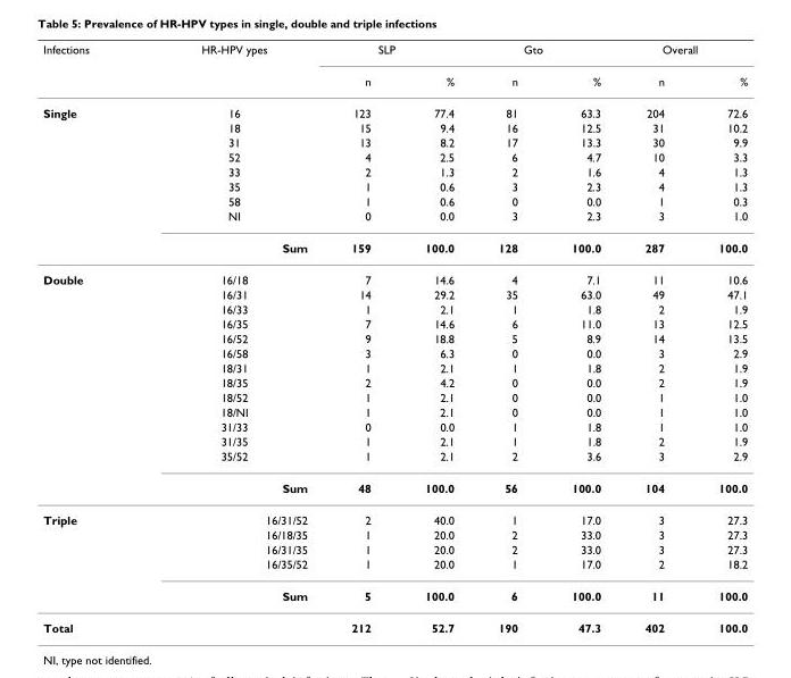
<table><thead><tr><td rowspan="2">Infections</td><td rowspan="2">HR-HPV ypes</td><td colspan="2">SLP</td><td colspan="2">Gto</td><td colspan="2">Overall</td></tr><tr><td>n</td><td>%</td><td>n</td><td>%</td><td>n</td><td>%</td></tr></thead><tbody><tr><td rowspan="9">Single</td><td>16</td><td>123</td><td>77.4</td><td>81</td><td>63.3</td><td>204</td><td>72.6</td></tr><tr><td>18</td><td>15</td><td>9.4</td><td>16</td><td>12.5</td><td>31</td><td>10.2</td></tr><tr><td>31</td><td>13</td><td>8.2</td><td>17</td><td>13.3</td><td>30</td><td>9.9</td></tr><tr><td>52</td><td>4</td><td>2.5</td><td>6</td><td>4.7</td><td>10</td><td>3.3</td></tr><tr><td>33</td><td>2</td><td>1.3</td><td>2</td><td>1.6</td><td>4</td><td>1.3</td></tr><tr><td>35</td><td>1</td><td>0.6</td><td>3</td><td>2.3</td><td>4</td><td>1.3</td></tr><tr><td>58</td><td>1</td><td>0.6</td><td>0</td><td>0.0</td><td>1</td><td>0.3</td></tr><tr><td>NI</td><td>0</td><td>0.0</td><td>3</td><td>2.3</td><td>3</td><td>1.0</td></tr><tr><td>Sum</td><td>159</td><td>100.0</td><td>128</td><td>100.0</td><td>287</td><td>100.0</td></tr><tr><td rowspan="14">Double</td><td>16/18</td><td>7</td><td>14.6</td><td>4</td><td>7.1</td><td>11</td><td>10.6</td></tr><tr><td>16/31</td><td>14</td><td>29.2</td><td>35</td><td>63.0</td><td>49</td><td>47.1</td></tr><tr><td>16/33</td><td>1</td><td>2.1</td><td>1</td><td>1.8</td><td>2</td><td>1.9</td></tr><tr><td>16/35</td><td>7</td><td>14.6</td><td>6</td><td>11.0</td><td>13</td><td>12.5</td></tr><tr><td>16/52</td><td>9</td><td>18.8</td><td>5</td><td>8.9</td><td>14</td><td>13.5</td></tr><tr><td>16/58</td><td>3</td><td>6.3</td><td>0</td><td>0.0</td><td>3</td><td>2.9</td></tr><tr><td>18/31</td><td>1</td><td>2.1</td><td>1</td><td>1.8</td><td>2</td><td>1.9</td></tr><tr><td>18/35</td><td>2</td><td>4.2</td><td>0</td><td>0.0</td><td>2</td><td>1.9</td></tr><tr><td>18/52</td><td>1</td><td>2.1</td><td>0</td><td>0.0</td><td>1</td><td>1.0</td></tr><tr><td>18/NI</td><td>1</td><td>2.1</td><td>0</td><td>0.0</td><td>1</td><td>1.0</td></tr><tr><td>31/33</td><td>0</td><td>0.0</td><td>1</td><td>1.8</td><td>1</td><td>1.0</td></tr><tr><td>31/35</td><td>1</td><td>2.1</td><td>1</td><td>1.8</td><td>2</td><td>1.9</td></tr><tr><td>35/52</td><td>1</td><td>2.1</td><td>2</td><td>3.6</td><td>3</td><td>2.9</td></tr><tr><td>Sum</td><td>48</td><td>100.0</td><td>56</td><td>100.0</td><td>104</td><td>100.0</td></tr><tr><td rowspan="5">Triple</td><td>16/31/52</td><td>2</td><td>40.0</td><td>1</td><td>17.0</td><td>3</td><td>27.3</td></tr><tr><td>16/18/35</td><td>1</td><td>20.0</td><td>2</td><td>33.0</td><td>3</td><td>27.3</td></tr><tr><td>16/31/35</td><td>1</td><td>20.0</td><td>2</td><td>33.0</td><td>3</td><td>27.3</td></tr><tr><td>16/35/52</td><td>1</td><td>20.0</td><td>1</td><td>17.0</td><td>2</td><td>18.2</td></tr><tr><td>Sum</td><td>5</td><td>100.0</td><td>6</td><td>100.0</td><td>11</td><td>100.0</td></tr><tr><td>Total</td><td></td><td>212</td><td>52.7</td><td>190</td><td>47.3</td><td>402</td><td>100.0</td></tr></tbody></table>